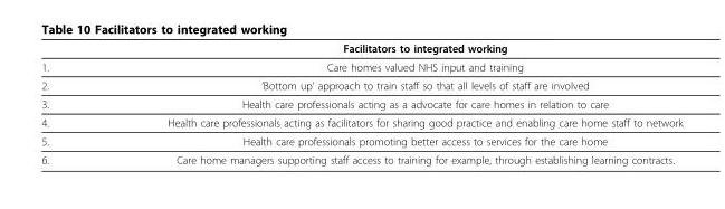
<table><thead><tr><td></td><td>Facilitators to integrated working</td></tr></thead><tbody><tr><td>1.</td><td>Care homes valued NHS input and training</td></tr><tr><td>2.</td><td>’Bottom up’ approach to train staff so that all levels of staff are involved</td></tr><tr><td>3.</td><td>Health care professionals acting as a advocate for care homes in relation to care</td></tr><tr><td>4.</td><td>Health care professionals acting as facilitators for sharing good practice and enabling care home staff to network</td></tr><tr><td>5.</td><td>Health care professionals promoting better access to services for the care home</td></tr><tr><td>6.</td><td>Care home managers supporting staff access to training for example, through establishing learning contracts.</td></tr></tbody></table>